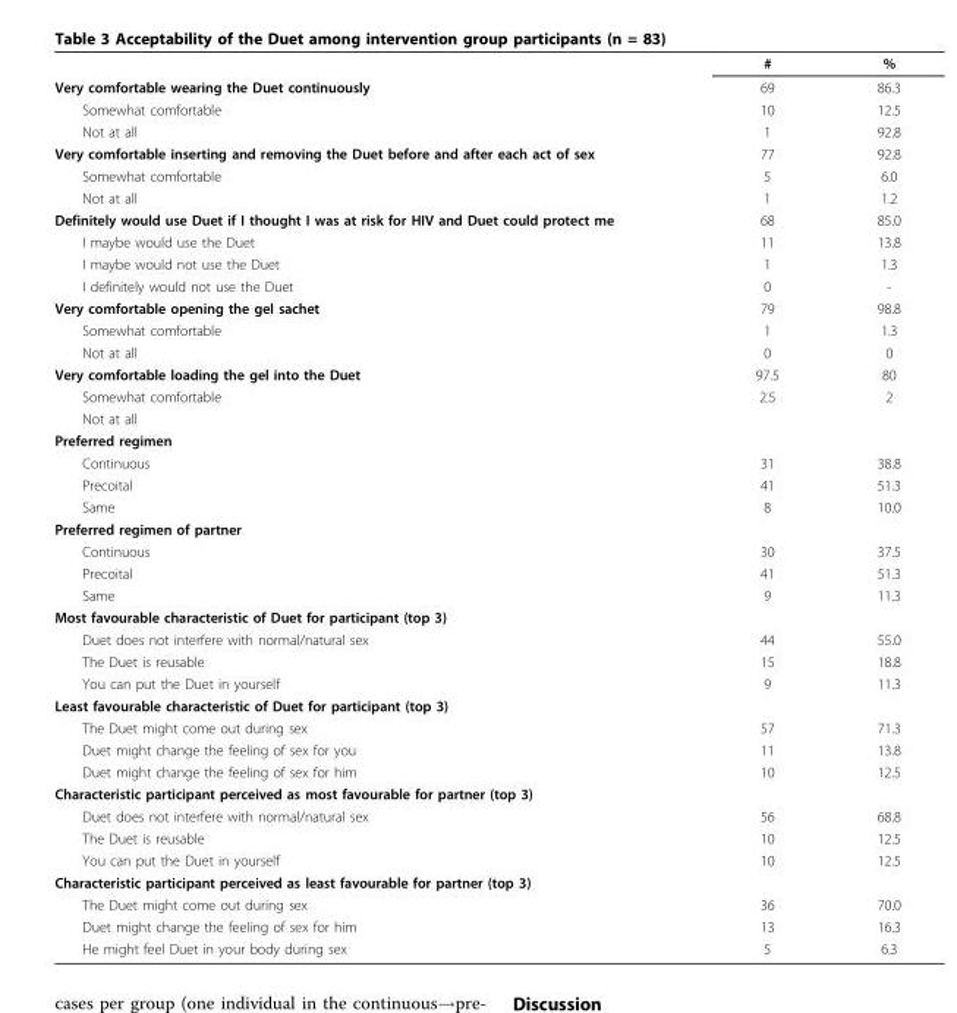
<table><thead><tr><td></td><td>#</td><td>%</td></tr></thead><tbody><tr><td>Very comfortable wearing the Duet continuously</td><td>69</td><td>86.3</td></tr><tr><td>Somewhat comfortable</td><td>10</td><td>12.5</td></tr><tr><td>Not at all</td><td>1</td><td>92.8</td></tr><tr><td>Very comfortable inserting and removing the Duet before and after each act of sex</td><td>77</td><td>92.8</td></tr><tr><td>Somewhat comfortable</td><td>5</td><td>6.0</td></tr><tr><td>Not at all</td><td>1</td><td>1.2</td></tr><tr><td>Definitely would use Duet if I thought I was at risk for HIV and Duet could protect me</td><td>68</td><td>85.0</td></tr><tr><td>I maybe would use the Duet</td><td>11</td><td>13.8</td></tr><tr><td>I maybe would not use the Duet</td><td>1</td><td>1.3</td></tr><tr><td>I definitely would not use the Duet</td><td>0</td><td>-</td></tr><tr><td>Very comfortable opening the gel sachet</td><td>79</td><td>98.8</td></tr><tr><td>Somewhat comfortable</td><td>1</td><td>1.3</td></tr><tr><td>Not at all</td><td>0</td><td>0</td></tr><tr><td>Very comfortable loading the gel into the Duet</td><td>97.5</td><td>80</td></tr><tr><td>Somewhat comfortable</td><td>2.5</td><td>2</td></tr><tr><td colspan="3">Not at all</td></tr><tr><td colspan="3">Preferred regimen</td></tr><tr><td>Continuous</td><td>31</td><td>38.8</td></tr><tr><td>Precoital</td><td>41</td><td>51.3</td></tr><tr><td>Same</td><td>8</td><td>10.0</td></tr><tr><td colspan="3">Preferred regimen of partner</td></tr><tr><td>Continuous</td><td>30</td><td>37.5</td></tr><tr><td>Precoital</td><td>41</td><td>51.3</td></tr><tr><td>Same</td><td>9</td><td>11.3</td></tr><tr><td colspan="3">Most favourable characteristic of Duet for participant (top 3)</td></tr><tr><td>Duet does not interfere with normal/natural sex</td><td>44</td><td>55.0</td></tr><tr><td>The Duet is reusable</td><td>15</td><td>18.8</td></tr><tr><td>You can put the Duet in yourself</td><td>9</td><td>11.3</td></tr><tr><td colspan="3">Least favourable characteristic of Duet for participant (top 3)</td></tr><tr><td>The Duet might come out during sex</td><td>57</td><td>71.3</td></tr><tr><td>Duet might change the feeling of sex for you</td><td>11</td><td>13.8</td></tr><tr><td>Duet might change the feeling of sex for him</td><td>10</td><td>12.5</td></tr><tr><td colspan="3">Characteristic participant perceived as most favourable for partner (top 3)</td></tr><tr><td>Duet does not interfere with normal/natural sex</td><td>56</td><td>68.8</td></tr><tr><td>The Duet is reusable</td><td>10</td><td>12.5</td></tr><tr><td>You can put the Duet in yourself</td><td>10</td><td>12.5</td></tr><tr><td colspan="3">Characteristic participant perceived as least favourable for partner (top 3)</td></tr><tr><td>The Duet might come out during sex</td><td>36</td><td>70.0</td></tr><tr><td>Duet might change the feeling of sex for him</td><td>13</td><td>16.3</td></tr><tr><td>He might feel Duet in your body during sex</td><td>5</td><td>6.3</td></tr></tbody></table>